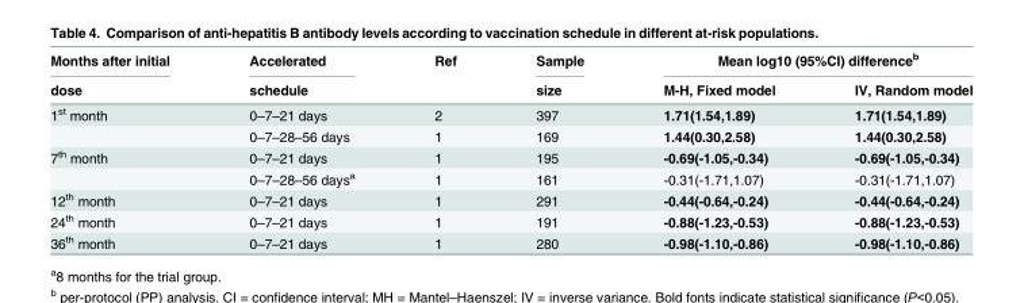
<table><thead><tr><td rowspan="2">Months after initial dose</td><td rowspan="2">Accelerated schedule</td><td rowspan="2">Ref</td><td rowspan="2">Sample size</td><td colspan="2">Mean log10 (95%CI) difference<sup>b</sup></td></tr><tr><td>M-H, Fixed model</td><td>IV, Random model</td></tr></thead><tbody><tr><td rowspan="2">1<sup>st</sup> month</td><td>0–7–21 days</td><td>2</td><td>397</td><td>1.71(1.54,1.89)</td><td>1.71(1.54,1.89)</td></tr><tr><td>0–7–28–56 days</td><td>1</td><td>169</td><td>1.44(0.30,2.58)</td><td>1.44(0.30,2.58)</td></tr><tr><td rowspan="2">7<sup>th</sup> month</td><td>0–7–21 days</td><td>1</td><td>195</td><td>-0.69(-1.05,-0.34)</td><td>-0.69(-1.05,-0.34)</td></tr><tr><td>0–7–28–56 days<sup>a</sup></td><td>1</td><td>161</td><td>-0.31(-1.71,1.07)</td><td>-0.31(-1.71,1.07)</td></tr><tr><td>12<sup>th</sup> month</td><td>0–7–21 days</td><td>1</td><td>291</td><td>-0.44(-0.64,-0.24)</td><td>-0.44(-0.64,-0.24)</td></tr><tr><td>24<sup>th</sup> month</td><td>0–7–21 days</td><td>1</td><td>191</td><td>-0.88(-1.23,-0.53)</td><td>-0.88(-1.23,-0.53)</td></tr><tr><td>36<sup>th</sup> month</td><td>0–7–21 days</td><td>1</td><td>280</td><td>-0.98(-1.10,-0.86)</td><td>-0.98(-1.10,-0.86)</td></tr></tbody></table>